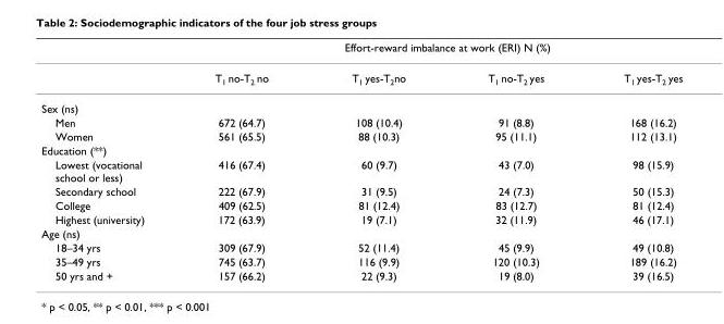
<table><thead><tr><td rowspan="2"></td><td colspan="4">Effort-reward imbalance at work (ERI) N (%)</td></tr><tr><td>T<sub>1</sub> no-T<sub>2</sub> no</td><td>T<sub>1</sub> yes-T<sub>2</sub>no</td><td>T<sub>1</sub> no-T<sub>2</sub> yes</td><td>T<sub>1</sub> yes-T<sub>2</sub> yes</td></tr></thead><tbody><tr><td colspan="5">Sex (ns)</td></tr><tr><td>Men</td><td>672 (64.7)</td><td>108 (10.4)</td><td>91 (8.8)</td><td>168 (16.2)</td></tr><tr><td>Women</td><td>561 (65.5)</td><td>88 (10.3)</td><td>95 (11.1)</td><td>112 (13.1)</td></tr><tr><td colspan="5">Education (**)</td></tr><tr><td>Lowest (vocational school or less)</td><td>416 (67.4)</td><td>60 (9.7)</td><td>43 (7.0)</td><td>98 (15.9)</td></tr><tr><td>Secondary school</td><td>222 (67.9)</td><td>31 (9.5)</td><td>24 (7.3)</td><td>50 (15.3)</td></tr><tr><td>College</td><td>409 (62.5)</td><td>81 (12.4)</td><td>83 (12.7)</td><td>81 (12.4)</td></tr><tr><td>Highest (university)</td><td>172 (63.9)</td><td>19 (7.1)</td><td>32 (11.9)</td><td>46 (17.1)</td></tr><tr><td colspan="5">Age (ns)</td></tr><tr><td>18–34 yrs</td><td>309 (67.9)</td><td>52 (11.4)</td><td>45 (9.9)</td><td>49 (10.8)</td></tr><tr><td>35–49 yrs</td><td>745 (63.7)</td><td>116 (9.9)</td><td>120 (10.3)</td><td>189 (16.2)</td></tr><tr><td>50 yrs and +</td><td>157 (66.2)</td><td>22 (9.3)</td><td>19 (8.0)</td><td>39 (16.5)</td></tr></tbody></table>